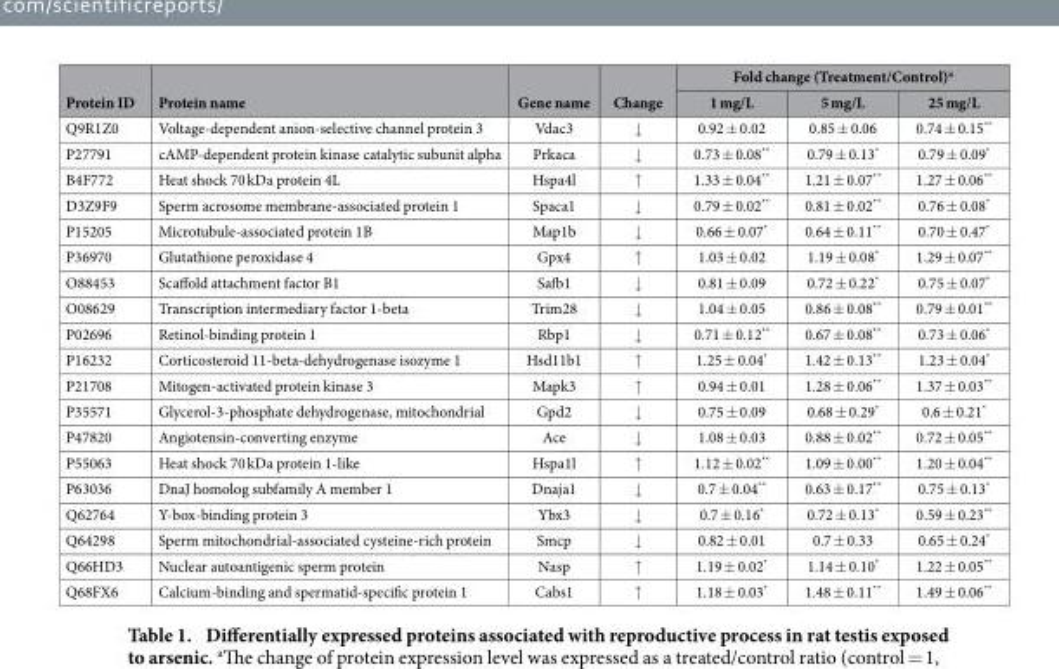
<table><thead><tr><td rowspan="2">Protein ID</td><td rowspan="2">Protein name</td><td rowspan="2">Gene name</td><td rowspan="2">Change</td><td colspan="3">Fold change (Treatment/Control)<sup>a</sup></td></tr><tr><td>1 mg/L</td><td>5 mg/L</td><td>25 mg/L</td></tr></thead><tbody><tr><td>Q9R1Z0</td><td>Voltage-dependent anion-selective channel protein 3</td><td>Vdac3</td><td>↓</td><td>0.92 ± 0.02</td><td>0.85 ± 0.06</td><td>0.74 ± 0.15**</td></tr><tr><td>P27791</td><td>cAMP-dependent protein kinase catalytic subunit alpha</td><td>Prkaca</td><td>↓</td><td>0.73 ± 0.08**</td><td>0.79 ± 0.13*</td><td>0.79 ± 0.09*</td></tr><tr><td>B4F772</td><td>Heat shock 70 kDa protein 4L</td><td>Hspa4l</td><td>↑</td><td>1.33 ± 0.04**</td><td>1.21 ± 0.07**</td><td>1.27 ± 0.06**</td></tr><tr><td>D3Z9F9</td><td>Sperm acrosome membrane-associated protein 1</td><td>Spaca1</td><td>↓</td><td>0.79 ± 0.02**</td><td>0.81 ± 0.02**</td><td>0.76 ± 0.08*</td></tr><tr><td>P15205</td><td>Microtubule-associated protein 1B</td><td>Map1b</td><td>↓</td><td>0.66 ± 0.07*</td><td>0.64 ± 0.11**</td><td>0.70 ± 0.47*</td></tr><tr><td>P36970</td><td>Glutathione peroxidase 4</td><td>Gpx4</td><td>↑</td><td>1.03 ± 0.02</td><td>1.19 ± 0.08*</td><td>1.29 ± 0.07**</td></tr><tr><td>O88453</td><td>Scaffold attachment factor B1</td><td>Safb1</td><td>↓</td><td>0.81 ± 0.09</td><td>0.72 ± 0.22*</td><td>0.75 ± 0.07*</td></tr><tr><td>O08629</td><td>Transcription intermediary factor 1-beta</td><td>Trim28</td><td>↓</td><td>1.04 ± 0.05</td><td>0.86 ± 0.08**</td><td>0.79 ± 0.01**</td></tr><tr><td>P02696</td><td>Retinol-binding protein 1</td><td>Rbp1</td><td>↓</td><td>0.71 ± 0.12**</td><td>0.67 ± 0.08**</td><td>0.73 ± 0.06*</td></tr><tr><td>P16232</td><td>Corticosteroid 11-beta-dehydrogenase isozyme 1</td><td>Hsd11b1</td><td>↑</td><td>1.25 ± 0.04*</td><td>1.42 ± 0.13**</td><td>1.23 ± 0.04*</td></tr><tr><td>P21708</td><td>Mitogen-activated protein kinase 3</td><td>Mapk3</td><td>↑</td><td>0.94 ± 0.01</td><td>1.28 ± 0.06**</td><td>1.37 ± 0.03**</td></tr><tr><td>P35571</td><td>Glycerol-3-phosphate dehydrogenase, mitochondrial</td><td>Gpd2</td><td>↓</td><td>0.75 ± 0.09</td><td>0.68 ± 0.29*</td><td>0.6 ± 0.21*</td></tr><tr><td>P47820</td><td>Angiotensin-converting enzyme</td><td>Ace</td><td>↓</td><td>1.08 ± 0.03</td><td>0.88 ± 0.02**</td><td>0.72 ± 0.05**</td></tr><tr><td>P55063</td><td>Heat shock 70 kDa protein 1-like</td><td>Hspa1l</td><td>↑</td><td>1.12 ± 0.02**</td><td>1.09 ± 0.00**</td><td>1.20 ± 0.04**</td></tr><tr><td>P63036</td><td>DnaJ homolog subfamily A member 1</td><td>Dnaja1</td><td>↓</td><td>0.7 ± 0.04**</td><td>0.63 ± 0.17**</td><td>0.75 ± 0.13*</td></tr><tr><td>Q62764</td><td>Y-box-binding protein 3</td><td>Ybx3</td><td>↓</td><td>0.7 ± 0.16*</td><td>0.72 ± 0.13*</td><td>0.59 ± 0.23**</td></tr><tr><td>Q64298</td><td>Sperm mitochondrial-associated cysteine-rich protein</td><td>Smcp</td><td>↓</td><td>0.82 ± 0.01</td><td>0.7 ± 0.33</td><td>0.65 ± 0.24*</td></tr><tr><td>Q66HD3</td><td>Nuclear autoantigenic sperm protein</td><td>Nasp</td><td>↑</td><td>1.19 ± 0.02*</td><td>1.14 ± 0.10*</td><td>1.22 ± 0.05**</td></tr><tr><td>Q68FX6</td><td>Calcium-binding and spermatid-specific protein 1</td><td>Cabs1</td><td>↑</td><td>1.18 ± 0.03*</td><td>1.48 ± 0.11**</td><td>1.49 ± 0.06**</td></tr></tbody></table>